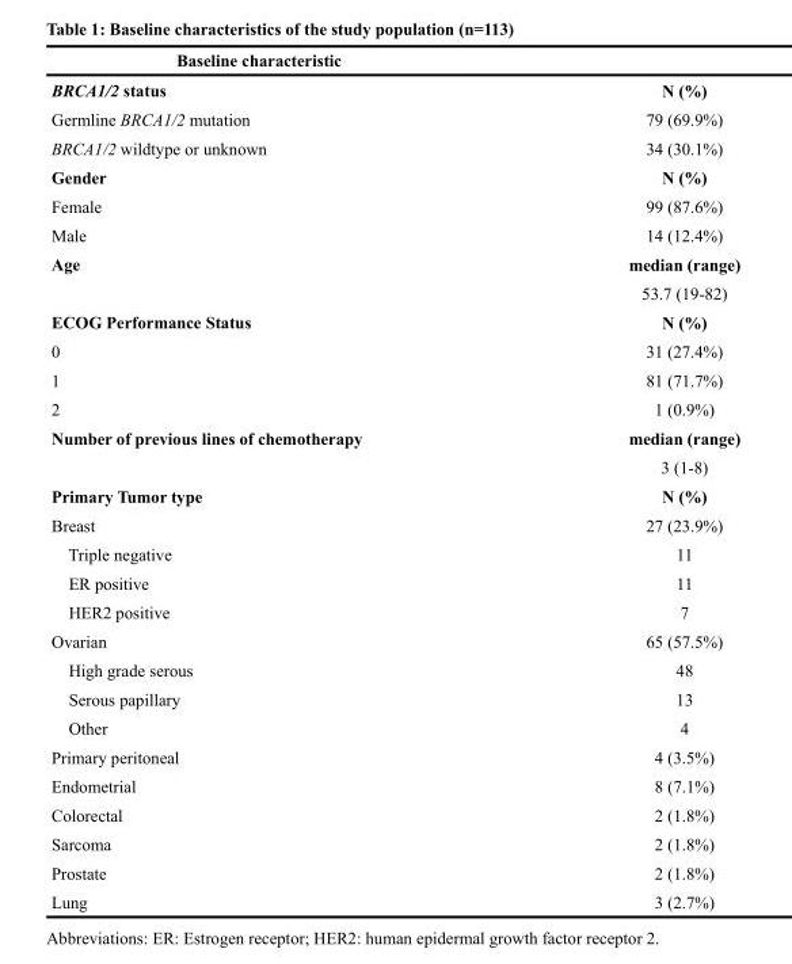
<table><thead><tr><td>Baseline characteristic</td><td></td></tr></thead><tbody><tr><td>BRCA1/2 status</td><td>N (%)</td></tr><tr><td>Germline BRCA1/2 mutation</td><td>79 (69.9%)</td></tr><tr><td>BRCA1/2 wildtype or unknown</td><td>34 (30.1%)</td></tr><tr><td>Gender</td><td>N (%)</td></tr><tr><td>Female</td><td>99 (87.6%)</td></tr><tr><td>Male</td><td>14 (12.4%)</td></tr><tr><td rowspan="2">Age</td><td>median (range)</td></tr><tr><td>53.7 (19-82)</td></tr><tr><td>ECOG Performance Status</td><td>N (%)</td></tr><tr><td>0</td><td>31 (27.4%)</td></tr><tr><td>1</td><td>81 (71.7%)</td></tr><tr><td>2</td><td>1 (0.9%)</td></tr><tr><td rowspan="2">Number of previous lines of chemotherapy</td><td>median (range)</td></tr><tr><td>3 (1-8)</td></tr><tr><td>Primary Tumor type</td><td>N (%)</td></tr><tr><td>Breast</td><td>27 (23.9%)</td></tr><tr><td>Triple negative</td><td>11</td></tr><tr><td>ER positive</td><td>11</td></tr><tr><td>HER2 positive</td><td>7</td></tr><tr><td>Ovarian</td><td>65 (57.5%)</td></tr><tr><td>High grade serous</td><td>48</td></tr><tr><td>Serous papillary</td><td>13</td></tr><tr><td>Other</td><td>4</td></tr><tr><td>Primary peritoneal</td><td>4 (3.5%)</td></tr><tr><td>Endometrial</td><td>8 (7.1%)</td></tr><tr><td>Colorectal</td><td>2 (1.8%)</td></tr><tr><td>Sarcoma</td><td>2 (1.8%)</td></tr><tr><td>Prostate</td><td>2 (1.8%)</td></tr><tr><td>Lung</td><td>3 (2.7%)</td></tr></tbody></table>